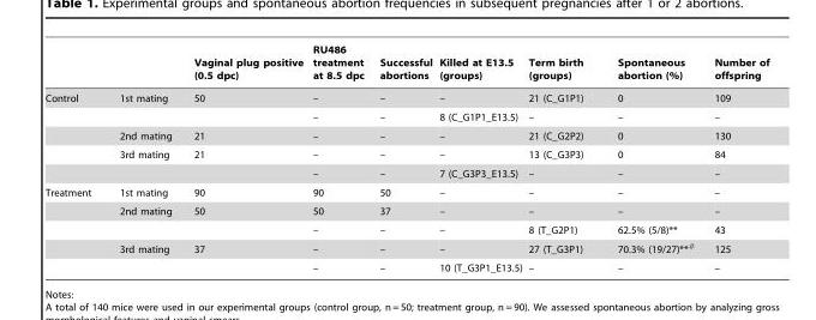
<table><thead><tr><td></td><td></td><td>Vaginal plug positive (0.5 dpc)</td><td>RU486 treatment at 8.5 dpc</td><td>Successful abortions</td><td>Killed at E13.5 (groups)</td><td>Term birth (groups)</td><td>Spontaneous abortion (%)</td><td>Number of offspring</td></tr></thead><tbody><tr><td rowspan="5">Control</td><td>1st mating</td><td>50</td><td>–</td><td>–</td><td>–</td><td>21 (C_G1P1)</td><td>0</td><td>109</td></tr><tr><td></td><td></td><td>–</td><td>–</td><td>8 (C_G1P1_E13.5)</td><td>–</td><td>–</td><td>–</td></tr><tr><td>2nd mating</td><td>21</td><td>–</td><td>–</td><td>–</td><td>21 (C_G2P2)</td><td>0</td><td>130</td></tr><tr><td>3rd mating</td><td>21</td><td>–</td><td>–</td><td>–</td><td>13 (C_G3P3)</td><td>0</td><td>84</td></tr><tr><td></td><td></td><td>–</td><td>–</td><td>7 (C_G3P3_E13.5)</td><td>–</td><td>–</td><td>–</td></tr><tr><td rowspan="5">Treatment</td><td>1st mating</td><td>90</td><td>90</td><td>50</td><td>–</td><td>–</td><td>–</td><td>–</td></tr><tr><td>2nd mating</td><td>50</td><td>50</td><td>37</td><td>–</td><td>–</td><td>–</td><td>–</td></tr><tr><td></td><td></td><td>–</td><td>–</td><td>–</td><td>8 (T_G2P1)</td><td>62.5% (5/8)**</td><td>43</td></tr><tr><td>3rd mating</td><td>37</td><td>–</td><td>–</td><td>–</td><td>27 (T_G3P1)</td><td>70.3% (19/27)**<sup>#</sup></td><td>125</td></tr><tr><td></td><td></td><td>–</td><td>–</td><td>10 (T_G3P1_E13.5)</td><td>–</td><td>–</td><td>–</td></tr></tbody></table>